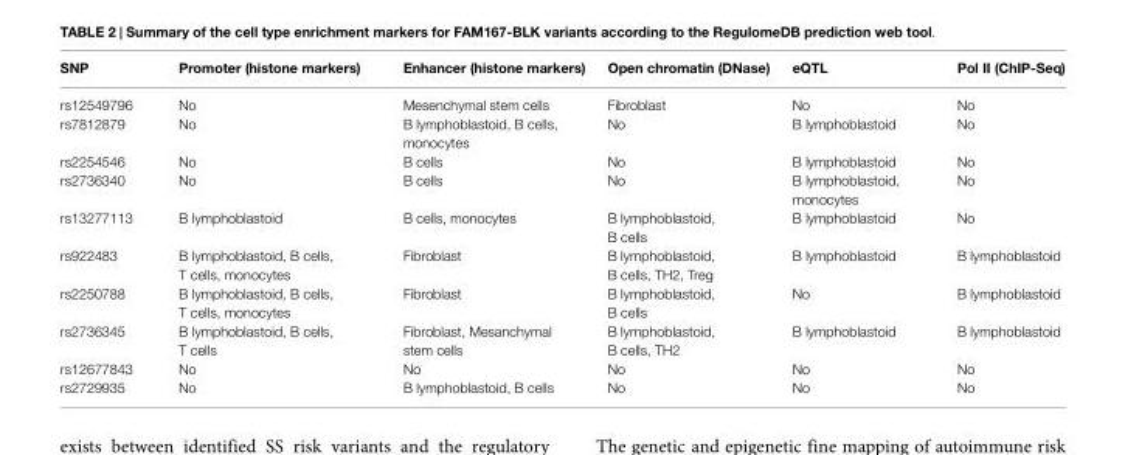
<table><thead><tr><td>SNP</td><td>Promoter (histone markers)</td><td>Enhancer (histone markers)</td><td>Open chromatin (DNase)</td><td>eQTL</td><td>Pol II (ChIP-Seq)</td></tr></thead><tbody><tr><td>rs12549796</td><td>No</td><td>Mesenchymal stem cells</td><td>Fibroblast</td><td>No</td><td>No</td></tr><tr><td>rs7812879</td><td>No</td><td>B lymphoblastoid, B cells, monocytes</td><td>No</td><td>B lymphoblastoid</td><td>No</td></tr><tr><td>rs2254546</td><td>No</td><td>B cells</td><td>No</td><td>B lymphoblastoid</td><td>No</td></tr><tr><td>rs2736340</td><td>No</td><td>B cells</td><td>No</td><td>B lymphoblastoid, monocytes</td><td>No</td></tr><tr><td>rs13277113</td><td>B lymphoblastoid</td><td>B cells, monocytes</td><td>B lymphoblastoid, B cells</td><td>B lymphoblastoid</td><td>No</td></tr><tr><td>rs922483</td><td>B lymphoblastoid, B cells, T cells, monocytes</td><td>Fibroblast</td><td>B lymphoblastoid, B cells, TH2, Treg</td><td>B lymphoblastoid</td><td>B lymphoblastoid</td></tr><tr><td>rs2250788</td><td>B lymphoblastoid, B cells, T cells, monocytes</td><td>Fibroblast</td><td>B lymphoblastoid, B cells</td><td>No</td><td>B lymphoblastoid</td></tr><tr><td>rs2736345</td><td>B lymphoblastoid, B cells, T cells</td><td>Fibroblast, Mesanchymal stem cells</td><td>B lymphoblastoid, B cells, TH2</td><td>B lymphoblastoid</td><td>B lymphoblastoid</td></tr><tr><td>rs12677843</td><td>No</td><td>No</td><td>No</td><td>No</td><td>No</td></tr><tr><td>rs2729935</td><td>No</td><td>B lymphoblastoid, B cells</td><td>No</td><td>No</td><td>No</td></tr></tbody></table>